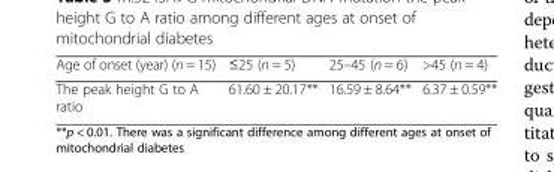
<table><thead><tr><td>Age of onset (year) (n = 15)</td><td>≤25 (n = 5)</td><td>25–45 (n = 6)</td><td>&gt;45 (n = 4)</td></tr></thead><tbody><tr><td>The peak height G to A ratio</td><td>61.60 ± 20.17**</td><td>16.59 ± 8.64**</td><td>6.37 ± 0.59**</td></tr></tbody></table>